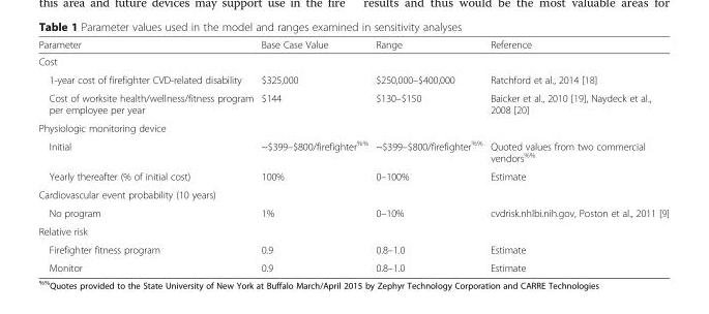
<table><thead><tr><td>Parameter</td><td>Base Case Value</td><td>Range</td><td>Reference</td></tr></thead><tbody><tr><td colspan="4">Cost</td></tr><tr><td>1-year cost of firefighter CVD-related disability</td><td>$325,000</td><td>$250,000–$400,000</td><td>Ratchford et al., 2014 [18]</td></tr><tr><td>Cost of worksite health/wellness/fitness program per employee per year</td><td>$144</td><td>$130–$150</td><td>Baicker et al., 2010 [19], Naydeck et al., 2008 [20]</td></tr><tr><td colspan="4">Physiologic monitoring device</td></tr><tr><td>Initial</td><td>~$399–$800/firefighter<sup>%%</sup></td><td>~$399–$800/firefighter<sup>%%</sup></td><td>Quoted values from two commercial vendors<sup>%%</sup></td></tr><tr><td>Yearly thereafter (% of initial cost)</td><td>100%</td><td>0–100%</td><td>Estimate</td></tr><tr><td colspan="4">Cardiovascular event probability (10 years)</td></tr><tr><td>No program</td><td>1%</td><td>0–10%</td><td>cvdrisk.nhlbi.nih.gov, Poston et al., 2011 [9]</td></tr><tr><td colspan="4">Relative risk</td></tr><tr><td>Firefighter fitness program</td><td>0.9</td><td>0.8–1.0</td><td>Estimate</td></tr><tr><td>Monitor</td><td>0.9</td><td>0.8–1.0</td><td>Estimate</td></tr></tbody></table>